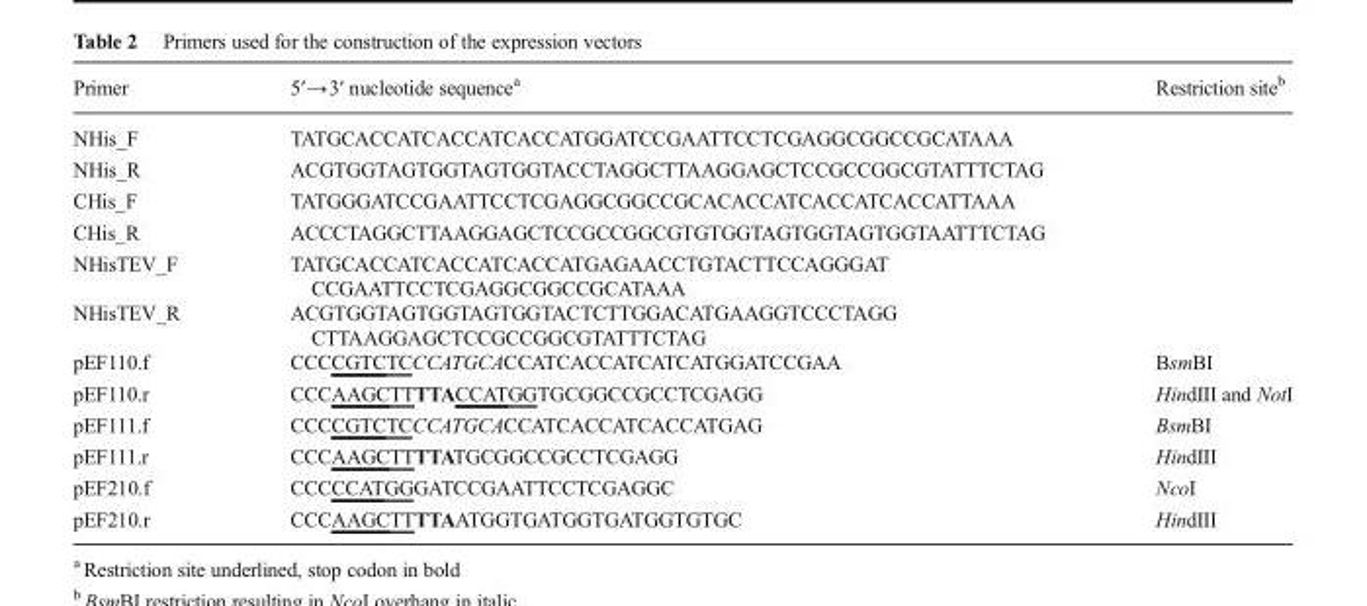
<table><thead><tr><td>Primer</td><td>5′→3′ nucleotide sequence<sup>a</sup></td><td>Restriction site<sup>b</sup></td></tr></thead><tbody><tr><td>NHis_F</td><td>TATGCACCATCACCATCACCATGGATCCGAATTCCTCGAGGCGGCCGCATAAA</td><td></td></tr><tr><td>NHis_R</td><td>ACGTGGTAGTGGTAGTGGTACCTAGGCTTAAGGAGCTCCGCCGGCGTATTTCTAG</td><td></td></tr><tr><td>CHis_F</td><td>TATGGGATCCGAATTCCTCGAGGCGGCCGCACACCATCACCATCACCATTAAA</td><td></td></tr><tr><td>CHis_R</td><td>ACCCTAGGCTTAAGGAGCTCCGCCGGCGTGTGGTAGTGGTAGTGGTAATTTCTAG</td><td></td></tr><tr><td>NHisTEV_F</td><td>TATGCACCATCACCATCACCATGAGAACCTGTACTTCCAGGGAT CCGAATTCCTCGAGGCGGCCGCATAAA</td><td></td></tr><tr><td>NHisTEV_R</td><td>ACGTGGTAGTGGTAGTGGTACTCTTGGACATGAAGGTCCCTAGG CTTAAGGAGCTCCGCCGGCGTATTTCTAG</td><td></td></tr><tr><td>pEF110.f</td><td>CCCCGTCTCCCATGCACCATCACCATCATCATGGATCCGAA</td><td>BsmBI</td></tr><tr><td>pEF110.r</td><td>CCCAAGCTTTTACCATGGTGCGGCCGCCTCGAGG</td><td>HindIII and NotI</td></tr><tr><td>pEF111.f</td><td>CCCCGTCTCCCATGCACCATCACCATCACCATGAG</td><td>BsmBI</td></tr><tr><td>pEF111.r</td><td>CCCAAGCTTTTATGCGGCCGCCTCGAGG</td><td>HindIII</td></tr><tr><td>pEF210.f</td><td>CCCCCATGGGATCCGAATTCCTCGAGGC</td><td>NcoI</td></tr><tr><td>pEF210.r</td><td>CCCAAGCTTTTAATGGTGATGGTGATGGTGTGC</td><td>HindIII</td></tr></tbody></table>